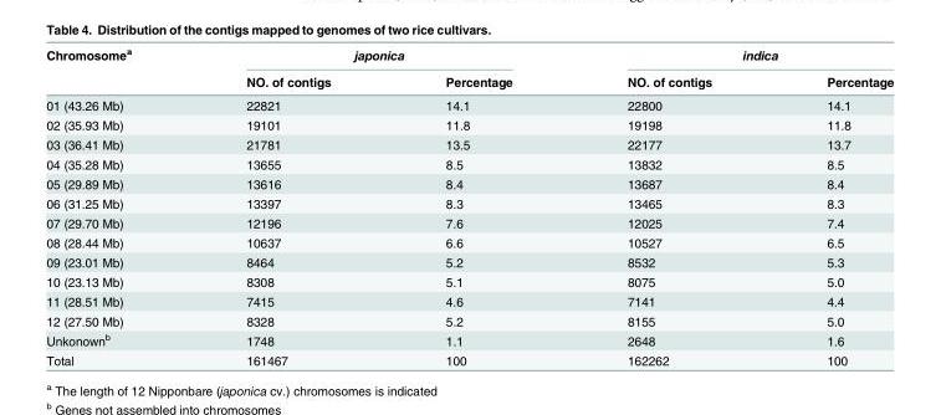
<table><thead><tr><td rowspan="2">Chromosome<sup>a</sup></td><td colspan="2">japonica</td><td colspan="2">indica</td></tr><tr><td>NO. of contigs</td><td>Percentage</td><td>NO. of contigs</td><td>Percentage</td></tr></thead><tbody><tr><td>01 (43.26 Mb)</td><td>22821</td><td>14.1</td><td>22800</td><td>14.1</td></tr><tr><td>02 (35.93 Mb)</td><td>19101</td><td>11.8</td><td>19198</td><td>11.8</td></tr><tr><td>03 (36.41 Mb)</td><td>21781</td><td>13.5</td><td>22177</td><td>13.7</td></tr><tr><td>04 (35.28 Mb)</td><td>13655</td><td>8.5</td><td>13832</td><td>8.5</td></tr><tr><td>05 (29.89 Mb)</td><td>13616</td><td>8.4</td><td>13687</td><td>8.4</td></tr><tr><td>06 (31.25 Mb)</td><td>13397</td><td>8.3</td><td>13465</td><td>8.3</td></tr><tr><td>07 (29.70 Mb)</td><td>12196</td><td>7.6</td><td>12025</td><td>7.4</td></tr><tr><td>08 (28.44 Mb)</td><td>10637</td><td>6.6</td><td>10527</td><td>6.5</td></tr><tr><td>09 (23.01 Mb)</td><td>8464</td><td>5.2</td><td>8532</td><td>5.3</td></tr><tr><td>10 (23.13 Mb)</td><td>8308</td><td>5.1</td><td>8075</td><td>5.0</td></tr><tr><td>11 (28.51 Mb)</td><td>7415</td><td>4.6</td><td>7141</td><td>4.4</td></tr><tr><td>12 (27.50 Mb)</td><td>8328</td><td>5.2</td><td>8155</td><td>5.0</td></tr><tr><td>Unkonown<sup>b</sup></td><td>1748</td><td>1.1</td><td>2648</td><td>1.6</td></tr><tr><td>Total</td><td>161467</td><td>100</td><td>162262</td><td>100</td></tr></tbody></table>